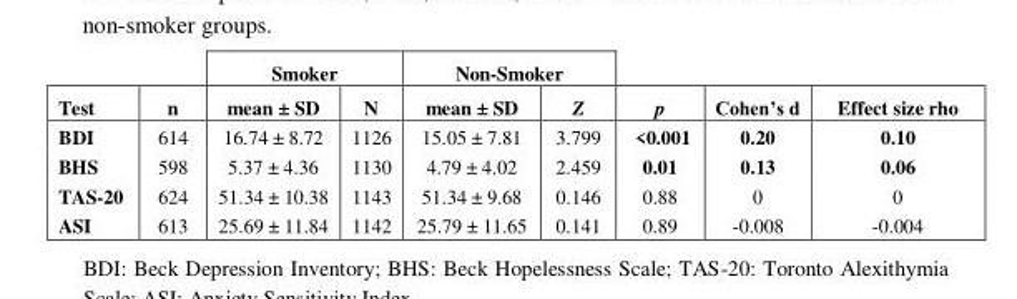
<table><thead><tr><td rowspan="2">Test</td><td rowspan="2">n</td><td colspan="2">Smoker</td><td colspan="2">Non-Smoker</td><td rowspan="2">p</td><td rowspan="2">Cohen’s d</td><td rowspan="2">Effect size rho</td></tr><tr><td>mean ± SD</td><td>N</td><td>mean ± SD</td><td>Z</td></tr></thead><tbody><tr><td>BDI</td><td>614</td><td>16.74 ± 8.72</td><td>1126</td><td>15.05 ± 7.81</td><td>3.799</td><td>&lt;0.001</td><td>0.20</td><td>0.10</td></tr><tr><td>BHS</td><td>598</td><td>5.37 ± 4.36</td><td>1130</td><td>4.79 ± 4.02</td><td>2.459</td><td>0.01</td><td>0.13</td><td>0.06</td></tr><tr><td>TAS-20</td><td>624</td><td>51.34 ± 10.38</td><td>1143</td><td>51.34 ± 9.68</td><td>0.146</td><td>0.88</td><td>0</td><td>0</td></tr><tr><td>ASI</td><td>613</td><td>25.69 ± 11.84</td><td>1142</td><td>25.79 ± 11.65</td><td>0.141</td><td>0.89</td><td>-0.008</td><td>-0.004</td></tr></tbody></table>